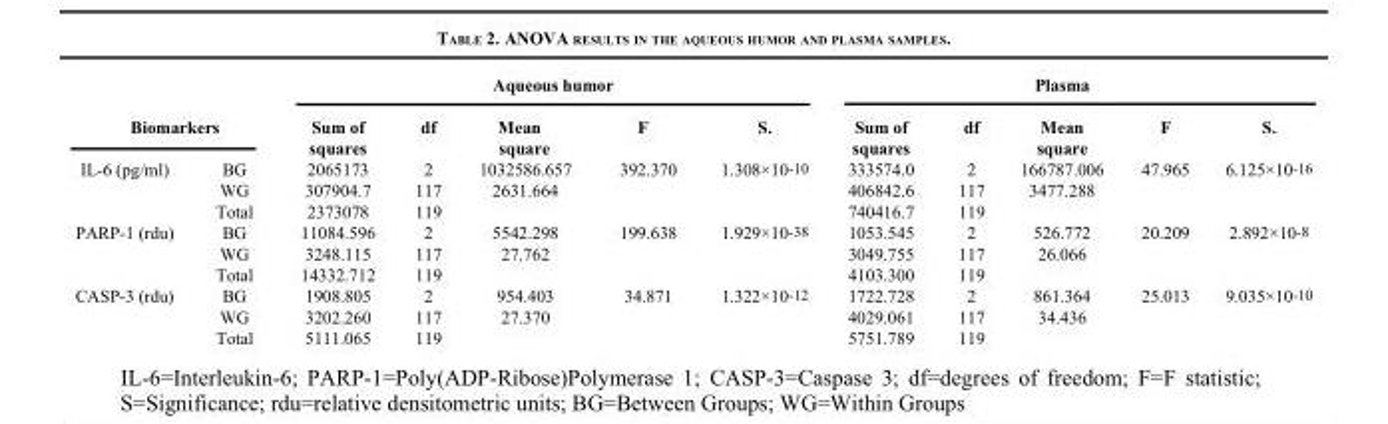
<table><thead><tr><td rowspan="2" colspan="2">Biomarkers</td><td colspan="5">Aqueous humor</td><td colspan="5">Plasma</td></tr><tr><td rowspan="2">Sum of squares 2065173</td><td rowspan="2">df 2</td><td rowspan="2">square Mean 1032586.657</td><td rowspan="2">F 392.370</td><td rowspan="2">S. 1.308×10<sup>-10</sup></td><td rowspan="2">Sum of squares 333574.0</td><td rowspan="2">df 2</td><td rowspan="2">Mean square 166787.006</td><td rowspan="2">F 47.965</td><td rowspan="2">S. 6.125×10<sup>-16</sup></td></tr><tr><td>IL-6 (pg/ml)</td><td>BG</td></tr></thead><tbody><tr><td></td><td>WG</td><td>307904.7</td><td>117</td><td>2631.664</td><td></td><td></td><td>406842.6</td><td>117</td><td>3477.288</td><td></td><td></td></tr><tr><td></td><td>Total</td><td>2373078</td><td>119</td><td></td><td></td><td></td><td>740416.7</td><td>119</td><td></td><td></td><td></td></tr><tr><td rowspan="3">PARP-1 (rdu)</td><td>BG</td><td>11084.596</td><td>2</td><td>5542.298</td><td>199.638</td><td>1.929×10<sup>-38</sup></td><td>1053.545</td><td>2</td><td>526.772</td><td>20.209</td><td>2.892×10<sup>-8</sup></td></tr><tr><td>WG</td><td>3248.115</td><td>117</td><td>27.762</td><td></td><td></td><td>3049.755</td><td>117</td><td>26.066</td><td></td><td></td></tr><tr><td>Total</td><td>14332.712</td><td>119</td><td></td><td></td><td></td><td>4103.300</td><td>119</td><td></td><td></td><td></td></tr><tr><td rowspan="3">CASP-3 (rdu)</td><td>BG</td><td>1908.805</td><td>2</td><td>954.403</td><td>34.871</td><td>1.322×10<sup>-12</sup></td><td>1722.728</td><td>2</td><td>861.364</td><td>25.013</td><td>9.035×10<sup>-10</sup></td></tr><tr><td>WG</td><td>3202.260</td><td>117</td><td>27.370</td><td></td><td></td><td>4029.061</td><td>117</td><td>34.436</td><td></td><td></td></tr><tr><td>Total</td><td>5111.065</td><td>119</td><td></td><td></td><td></td><td>5751.789</td><td>119</td><td></td><td></td><td></td></tr></tbody></table>